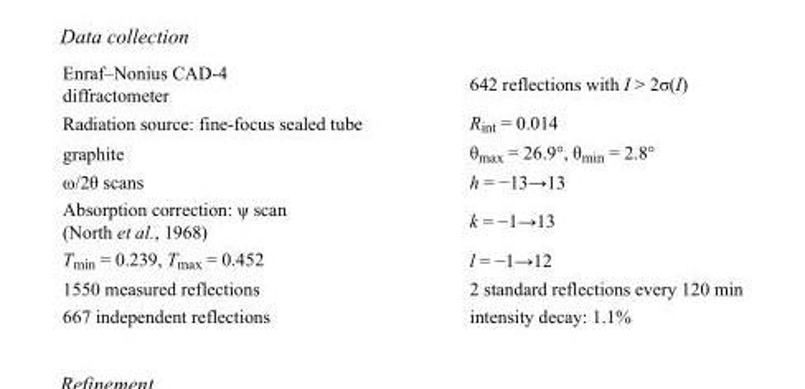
<table><tbody><tr><td>Enraf–Nonius CAD-4 diffractometer</td><td>642 reflections with I &gt; 2σ(I)</td></tr><tr><td>Radiation source: fine-focus sealed tube</td><td>R<sub>int</sub> = 0.014</td></tr><tr><td>graphite</td><td>θ<sub>max</sub> = 26.9°, θ<sub>min</sub> = 2.8°</td></tr><tr><td>ω/2θ scans</td><td>h = −13→13</td></tr><tr><td>Absorption correction: ψ scan (North et al., 1968)</td><td>k = −1→13</td></tr><tr><td>T<sub>min</sub> = 0.239, T<sub>max</sub> = 0.452</td><td>l = −1→12</td></tr><tr><td>1550 measured reflections</td><td>2 standard reflections every 120 min</td></tr><tr><td>667 independent reflections</td><td>intensity decay: 1.1%</td></tr></tbody></table>